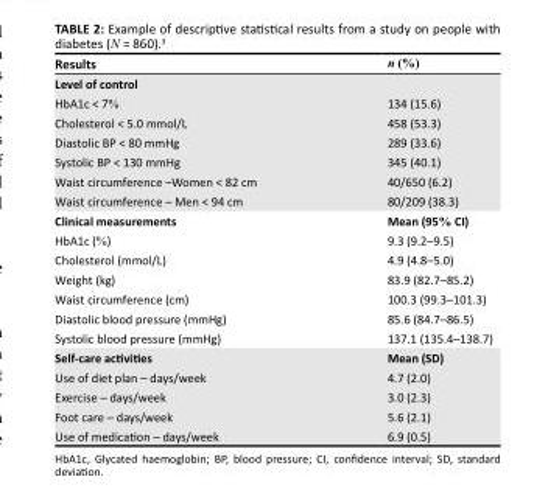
<table><thead><tr><td>Results</td><td>n (%)</td></tr></thead><tbody><tr><td colspan="2">Level of control</td></tr><tr><td>HbA1c &lt; 7%</td><td>134 (15.6)</td></tr><tr><td>Cholesterol &lt; 5.0 mmol/L</td><td>458 (53.3)</td></tr><tr><td>Diastolic BP &lt; 80 mmHg</td><td>289 (33.6)</td></tr><tr><td>Systolic BP &lt; 130 mmHg</td><td>345 (40.1)</td></tr><tr><td>Waist circumference –Women &lt; 82 cm</td><td>40/650 (6.2)</td></tr><tr><td>Waist circumference – Men &lt; 94 cm</td><td>80/209 (38.3)</td></tr><tr><td>Clinical measurements</td><td>Mean (95% CI)</td></tr><tr><td>HbA1c (%)</td><td>9.3 (9.2–9.5)</td></tr><tr><td>Cholesterol (mmol/L)</td><td>4.9 (4.8–5.0)</td></tr><tr><td>Weight (kg)</td><td>83.9 (82.7–85.2)</td></tr><tr><td>Waist circumference (cm)</td><td>100.3 (99.3–101.3)</td></tr><tr><td>Diastolic blood pressure (mmHg)</td><td>85.6 (84.7–86.5)</td></tr><tr><td>Systolic blood pressure (mmHg)</td><td>137.1 (135.4–138.7)</td></tr><tr><td>Self-care activities</td><td>Mean (SD)</td></tr><tr><td>Use of diet plan – days/week</td><td>4.7 (2.0)</td></tr><tr><td>Exercise – days/week</td><td>3.0 (2.3)</td></tr><tr><td>Foot care – days/week</td><td>5.6 (2.1)</td></tr><tr><td>Use of medication – days/week</td><td>6.9 (0.5)</td></tr></tbody></table>